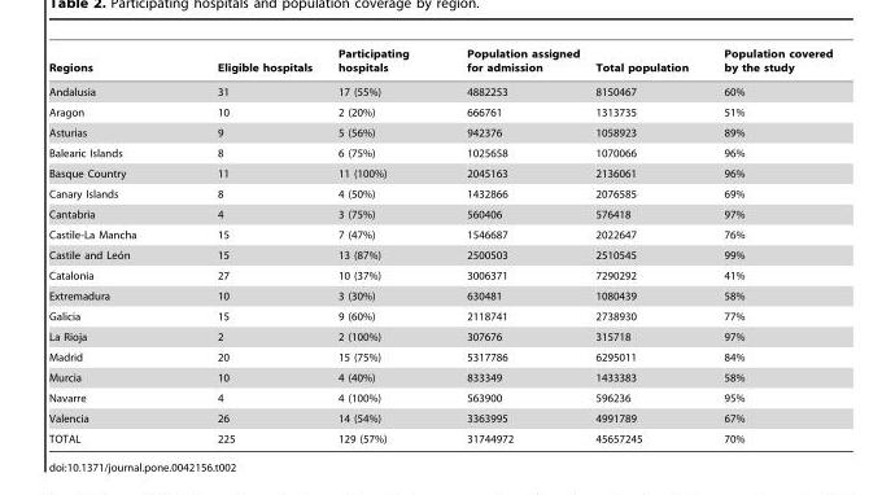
<table><thead><tr><td>Regions</td><td>Eligible hospitals</td><td>Participating hospitals</td><td>Population assigned for admission</td><td>Total population</td><td>Population covered by the study</td></tr></thead><tbody><tr><td>Andalusia</td><td>31</td><td>17 (55%)</td><td>4882253</td><td>8150467</td><td>60%</td></tr><tr><td>Aragon</td><td>10</td><td>2 (20%)</td><td>666761</td><td>1313735</td><td>51%</td></tr><tr><td>Asturias</td><td>9</td><td>5 (56%)</td><td>942376</td><td>1058923</td><td>89%</td></tr><tr><td>Balearic Islands</td><td>8</td><td>6 (75%)</td><td>1025658</td><td>1070066</td><td>96%</td></tr><tr><td>Basque Country</td><td>11</td><td>11 (100%)</td><td>2045163</td><td>2136061</td><td>96%</td></tr><tr><td>Canary Islands</td><td>8</td><td>4 (50%)</td><td>1432866</td><td>2076585</td><td>69%</td></tr><tr><td>Cantabria</td><td>4</td><td>3 (75%)</td><td>560406</td><td>576418</td><td>97%</td></tr><tr><td>Castile-La Mancha</td><td>15</td><td>7 (47%)</td><td>1546687</td><td>2022647</td><td>76%</td></tr><tr><td>Castile and Leo´n</td><td>15</td><td>13 (87%)</td><td>2500503</td><td>2510545</td><td>99%</td></tr><tr><td>Catalonia</td><td>27</td><td>10 (37%)</td><td>3006371</td><td>7290292</td><td>41%</td></tr><tr><td>Extremadura</td><td>10</td><td>3 (30%)</td><td>630481</td><td>1080439</td><td>58%</td></tr><tr><td>Galicia</td><td>15</td><td>9 (60%)</td><td>2118741</td><td>2738930</td><td>77%</td></tr><tr><td>La Rioja</td><td>2</td><td>2 (100%)</td><td>307676</td><td>315718</td><td>97%</td></tr><tr><td>Madrid</td><td>20</td><td>15 (75%)</td><td>5317786</td><td>6295011</td><td>84%</td></tr><tr><td>Murcia</td><td>10</td><td>4 (40%)</td><td>833349</td><td>1433383</td><td>58%</td></tr><tr><td>Navarre</td><td>4</td><td>4 (100%)</td><td>563900</td><td>596236</td><td>95%</td></tr><tr><td>Valencia</td><td>26</td><td>14 (54%)</td><td>3363995</td><td>4991789</td><td>67%</td></tr><tr><td>TOTAL</td><td>225</td><td>129 (57%)</td><td>31744972</td><td>45657245</td><td>70%</td></tr></tbody></table>